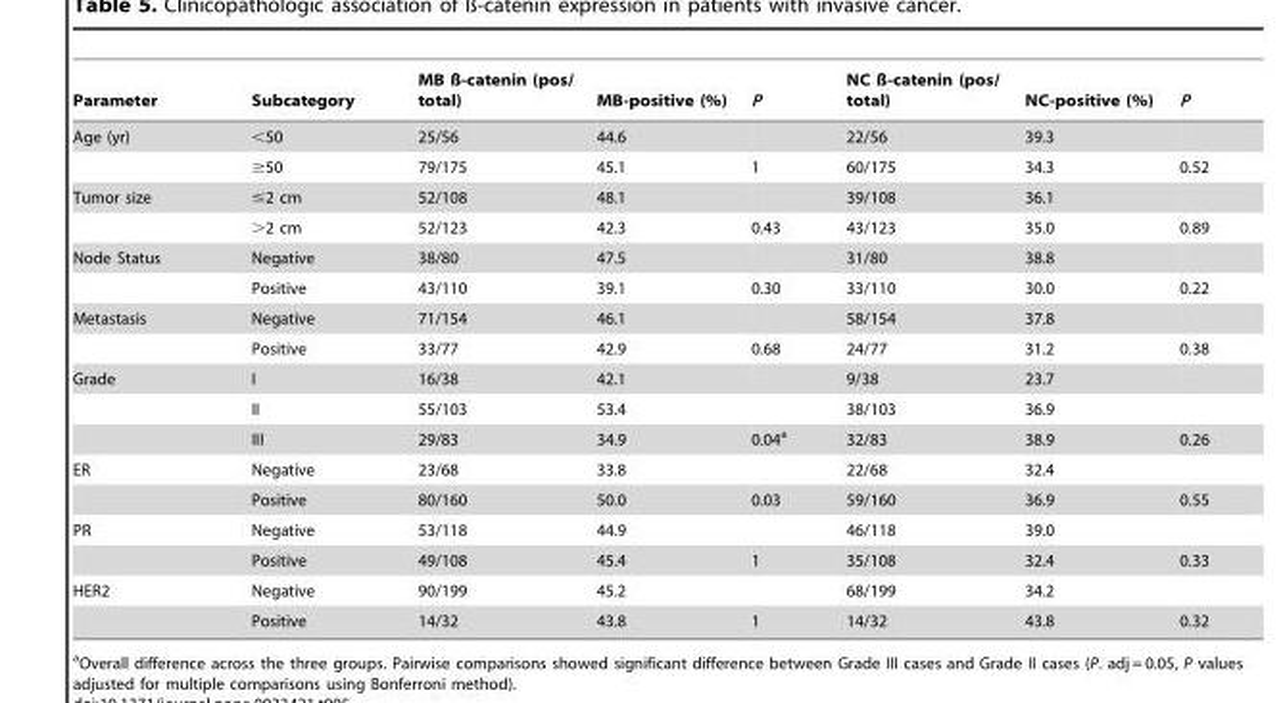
<table><thead><tr><td>Parameter</td><td>Subcategory</td><td>MB ß-catenin (pos/ total)</td><td>MB-positive (%)</td><td>P</td><td>NC ß-catenin (pos/ total)</td><td>NC-positive (%)</td><td>P</td></tr></thead><tbody><tr><td rowspan="2">Age (yr)</td><td>&lt;50</td><td>25/56</td><td>44.6</td><td></td><td>22/56</td><td>39.3</td><td></td></tr><tr><td>≥50</td><td>79/175</td><td>45.1</td><td>1</td><td>60/175</td><td>34.3</td><td>0.52</td></tr><tr><td rowspan="2">Tumor size</td><td>≤2 cm</td><td>52/108</td><td>48.1</td><td></td><td>39/108</td><td>36.1</td><td></td></tr><tr><td>&gt;2 cm</td><td>52/123</td><td>42.3</td><td>0.43</td><td>43/123</td><td>35.0</td><td>0.89</td></tr><tr><td rowspan="2">Node Status</td><td>Negative</td><td>38/80</td><td>47.5</td><td></td><td>31/80</td><td>38.8</td><td></td></tr><tr><td>Positive</td><td>43/110</td><td>39.1</td><td>0.30</td><td>33/110</td><td>30.0</td><td>0.22</td></tr><tr><td rowspan="2">Metastasis</td><td>Negative</td><td>71/154</td><td>46.1</td><td></td><td>58/154</td><td>37.8</td><td></td></tr><tr><td>Positive</td><td>33/77</td><td>42.9</td><td>0.68</td><td>24/77</td><td>31.2</td><td>0.38</td></tr><tr><td rowspan="3">Grade</td><td>I</td><td>16/38</td><td>42.1</td><td></td><td>9/38</td><td>23.7</td><td></td></tr><tr><td>II</td><td>55/103</td><td>53.4</td><td></td><td>38/103</td><td>36.9</td><td></td></tr><tr><td>III</td><td>29/83</td><td>34.9</td><td>0.04<sup>a</sup></td><td>32/83</td><td>38.9</td><td>0.26</td></tr><tr><td rowspan="2">ER</td><td>Negative</td><td>23/68</td><td>33.8</td><td></td><td>22/68</td><td>32.4</td><td></td></tr><tr><td>Positive</td><td>80/160</td><td>50.0</td><td>0.03</td><td>59/160</td><td>36.9</td><td>0.55</td></tr><tr><td rowspan="2">PR</td><td>Negative</td><td>53/118</td><td>44.9</td><td></td><td>46/118</td><td>39.0</td><td></td></tr><tr><td>Positive</td><td>49/108</td><td>45.4</td><td>1</td><td>35/108</td><td>32.4</td><td>0.33</td></tr><tr><td rowspan="2">HER2</td><td>Negative</td><td>90/199</td><td>45.2</td><td></td><td>68/199</td><td>34.2</td><td></td></tr><tr><td>Positive</td><td>14/32</td><td>43.8</td><td>1</td><td>14/32</td><td>43.8</td><td>0.32</td></tr></tbody></table>